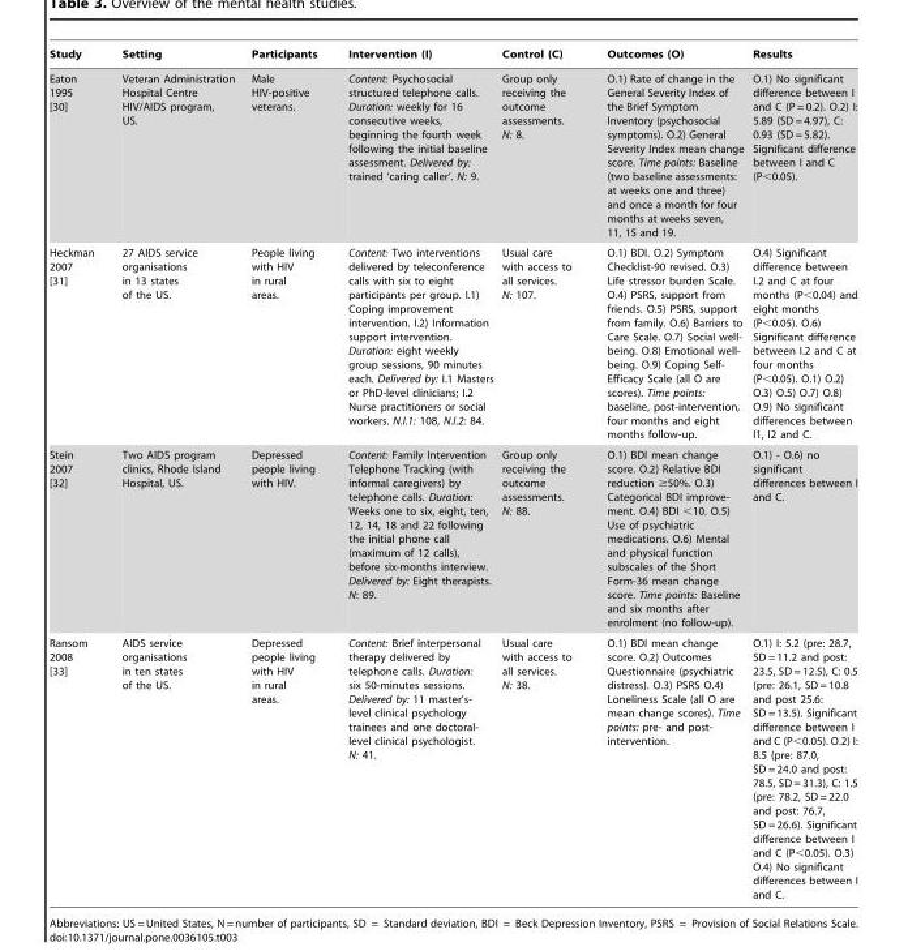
<table><thead><tr><td>Study</td><td>Setting</td><td>Participants</td><td>Intervention (I)</td><td>Control (C)</td><td>Outcomes (O)</td><td>Results</td></tr></thead><tbody><tr><td>Eaton 1995 [30]</td><td>Veteran Administration Hospital Centre HIV/AIDS program, US.</td><td>Male HIV-positive veterans.</td><td>Content: Psychosocial structured telephone calls. Duration: weekly for 16 consecutive weeks, beginning the fourth week following the initial baseline assessment. Delivered by: trained ‘caring caller’. N: 9.</td><td>Group only receiving the outcome assessments. N: 8.</td><td>O.1) Rate of change in the General Severity Index of the Brief Symptom Inventory (psychosocial symptoms). O.2) General Severity Index mean change score. Time points: Baseline (two baseline assessments: at weeks one and three) and once a month for four months at weeks seven, 11, 15 and 19.</td><td>O.1) No significant difference between I and C (P = 0.2). O.2) I: 5.89 (SD = 4.97), C: 0.93 (SD = 5.82). Significant difference between I and C (P&lt;0.05).</td></tr><tr><td>Heckman 2007 [31]</td><td>27 AIDS service organisations in 13 states of the US.</td><td>People living with HIV in rural areas.</td><td>Content: Two interventions delivered by teleconference calls with six to eight participants per group. I.1) Coping improvement intervention. I.2) Information support intervention. Duration: eight weekly group sessions, 90 minutes each. Delivered by: I.1 Masters or PhD-level clinicians; I.2 Nurse practitioners or social workers. N.I.1: 108, N.I.2: 84.</td><td>Usual care with access to all services. N: 107.</td><td>O.1) BDI. O.2) Symptom Checklist-90 revised. O.3) Life stressor burden Scale. O.4) PSRS, support from friends. O.5) PSRS, support from family. O.6) Barriers to Care Scale. O.7) Social well- being. O.8) Emotional well- being. O.9) Coping Self- Efficacy Scale (all O are scores). Time points: baseline, post-intervention, four months and eight months follow-up.</td><td>O.4) Significant difference between I.2 and C at four months (P&lt;0.04) and eight months (P&lt;0.05). O.6) Significant difference between I.2 and C at four months (P&lt;0.05). O.1) O.2) O.3) O.5) O.7) O.8) O.9) No significant differences between I1, I2 and C.</td></tr><tr><td>Stein 2007 [32]</td><td>Two AIDS program clinics, Rhode Island Hospital, US.</td><td>Depressed people living with HIV.</td><td>Content: Family Intervention Telephone Tracking (with informal caregivers) by telephone calls. Duration: Weeks one to six, eight, ten, 12, 14, 18 and 22 following the initial phone call (maximum of 12 calls), before six-months interview. Delivered by: Eight therapists. N: 89.</td><td>Group only receiving the outcome assessments. N: 88.</td><td>O.1) BDI mean change score. O.2) Relative BDI reduction $50%. O.3) Categorical BDI improve- ment. O.4) BDI ,10. O.5) Use of psychiatric medications. O.6) Mental and physical function subscales of the Short Form-36 mean change score. Time points: Baseline and six months after enrolment (no follow-up).</td><td>O.1) - O.6) no significant differences between I and C.</td></tr><tr><td>Ransom 2008 [33]</td><td>AIDS service organisations in ten states of the US.</td><td>Depressed people living with HIV in rural areas.</td><td>Content: Brief interpersonal therapy delivered by telephone calls. Duration: six 50-minutes sessions. Delivered by: 11 master’s- level clinical psychology trainees and one doctoral- level clinical psychologist. N: 41.</td><td>Usual care with access to all services. N: 38.</td><td>O.1) BDI mean change score. O.2) Outcomes Questionnaire (psychiatric distress). O.3) PSRS O.4) Loneliness Scale (all O are mean change scores). Time points: pre- and post- intervention.</td><td>O.1) I: 5.2 (pre: 28.7, SD = 11.2 and post: 23.5, SD = 12.5), C: 0.5 (pre: 26.1, SD = 10.8 and post 25.6: SD = 13.5). Significant difference between I and C (P&lt;0.05). O.2) I: 8.5 (pre: 87.0, SD = 24.0 and post: 78.5, SD = 31.3), C: 1.5 (pre: 78.2, SD = 22.0 and post: 76.7, SD = 26.6). Significant difference between I and C (P&lt;0.05). O.3) O.4) No significant differences between I and C.</td></tr></tbody></table>